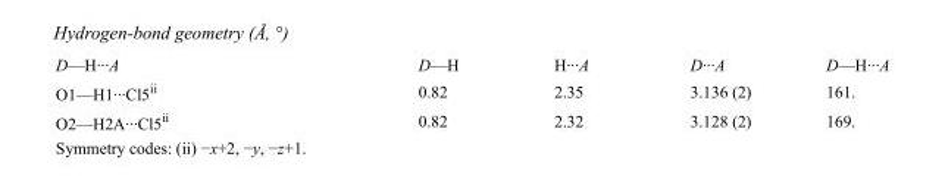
<table><tbody><tr><td>D—H···A</td><td>D—H</td><td>H···A</td><td>D···A</td><td>D—H···A</td></tr><tr><td>O1—H1···Cl5<sup>ii</sup></td><td>0.82</td><td>2.35</td><td>3.136 (2)</td><td>161.</td></tr><tr><td>O2—H2A···Cl5<sup>ii</sup></td><td>0.82</td><td>2.32</td><td>3.128 (2)</td><td>169.</td></tr></tbody></table>